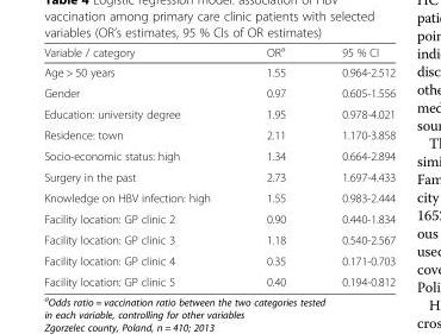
<table><thead><tr><td>Variable / category</td><td>OR<sup>a</sup></td><td>95 % CI</td></tr></thead><tbody><tr><td>Age &gt; 50 years</td><td>1.55</td><td>0.964-2.512</td></tr><tr><td>Gender</td><td>0.97</td><td>0.605-1.556</td></tr><tr><td>Education: university degree</td><td>1.95</td><td>0.978-4.021</td></tr><tr><td>Residence: town</td><td>2.11</td><td>1.170-3.858</td></tr><tr><td>Socio-economic status: high</td><td>1.34</td><td>0.664-2.894</td></tr><tr><td>Surgery in the past</td><td>2.73</td><td>1.697-4.433</td></tr><tr><td>Knowledge on HBV infection: high</td><td>1.55</td><td>0.983-2.444</td></tr><tr><td>Facility location: GP clinic 2</td><td>0.90</td><td>0.440-1.834</td></tr><tr><td>Facility location: GP clinic 3</td><td>1.18</td><td>0.540-2.567</td></tr><tr><td>Facility location: GP clinic 4</td><td>0.35</td><td>0.171-0.703</td></tr><tr><td>Facility location: GP clinic 5</td><td>0.40</td><td>0.194-0.812</td></tr></tbody></table>